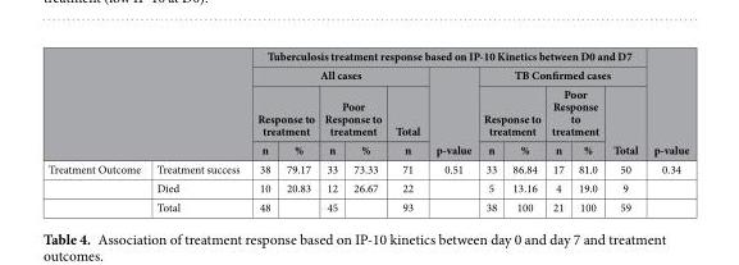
<table><thead><tr><td rowspan="4"></td><td rowspan="4"></td><td colspan="11">Tuberculosis treatment response based on IP-10 Kinetics between D0 and D7</td><td rowspan="4">p-value</td></tr><tr><td colspan="5">All cases</td><td rowspan="3">p-value</td><td colspan="5">TB Confirmed cases</td></tr><tr><td colspan="2">Response to treatment</td><td colspan="2">Poor Response to treatment</td><td rowspan="2">Total n</td><td colspan="2">Response to treatment</td><td colspan="2">Poor Response to treatment</td><td rowspan="2">Total</td></tr><tr><td>n</td><td>%</td><td>n</td><td>%</td><td>n</td><td>%</td><td>n</td><td>%</td></tr></thead><tbody><tr><td rowspan="3">Treatment Outcome</td><td>Treatment success</td><td>38</td><td>79.17</td><td>33</td><td>73.33</td><td>71</td><td>0.51</td><td>33</td><td>86.84</td><td>17</td><td>81.0</td><td>50</td><td>0.34</td></tr><tr><td>Died</td><td>10</td><td>20.83</td><td>12</td><td>26.67</td><td>22</td><td></td><td>5</td><td>13.16</td><td>4</td><td>19.0</td><td>9</td><td></td></tr><tr><td>Total</td><td>48</td><td></td><td>45</td><td></td><td>93</td><td></td><td>38</td><td>100</td><td>21</td><td>100</td><td>59</td><td></td></tr></tbody></table>